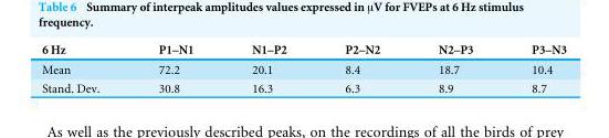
<table><thead><tr><td>6 Hz</td><td>P1–N1</td><td>N1–P2</td><td>P2–N2</td><td>N2–P3</td><td>P3–N3</td></tr></thead><tbody><tr><td>Mean</td><td>72.2</td><td>20.1</td><td>8.4</td><td>18.7</td><td>10.4</td></tr><tr><td>Stand. Dev.</td><td>30.8</td><td>16.3</td><td>6.3</td><td>8.9</td><td>8.7</td></tr></tbody></table>